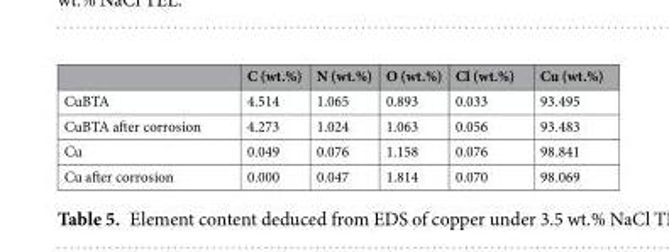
<table><thead><tr><td></td><td>C (wt.%)</td><td>N (wt.%)</td><td>O (wt.%)</td><td>Cl (wt.%)</td><td>Cu (wt.%)</td></tr></thead><tbody><tr><td>CuBTA</td><td>4.514</td><td>1.065</td><td>0.893</td><td>0.033</td><td>93.495</td></tr><tr><td>CuBTA after corrosion</td><td>4.273</td><td>1.024</td><td>1.063</td><td>0.056</td><td>93.483</td></tr><tr><td>Cu</td><td>0.049</td><td>0.076</td><td>1.158</td><td>0.076</td><td>98.841</td></tr><tr><td>Cu after corrosion</td><td>0.000</td><td>0.047</td><td>1.814</td><td>0.070</td><td>98.069</td></tr></tbody></table>